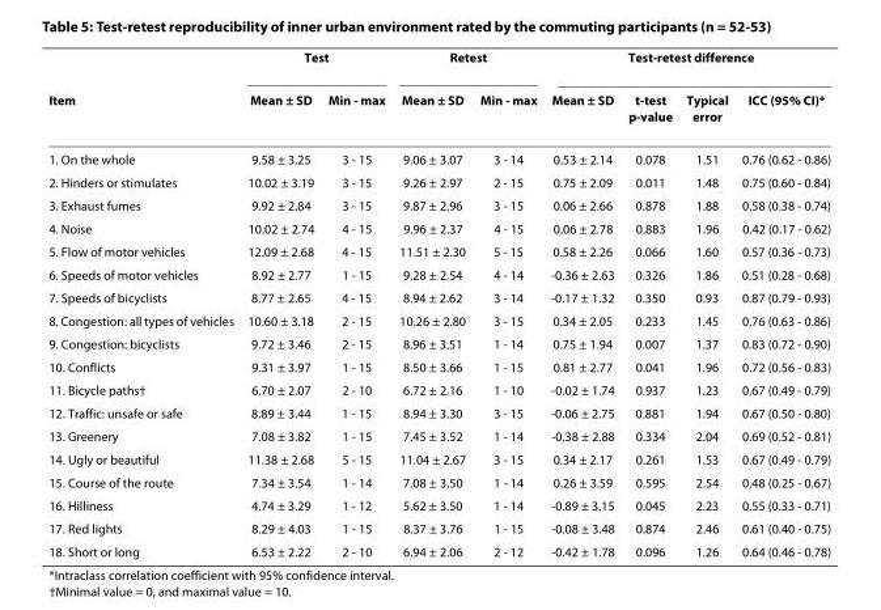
<table><thead><tr><td rowspan="2">Item</td><td colspan="2">Test</td><td colspan="2">Retest</td><td colspan="4">Test-retest difference</td></tr><tr><td>Mean ± SD</td><td>Min - max</td><td>Mean ± SD</td><td>Min - max</td><td>Mean ± SD</td><td>t-test p-value</td><td>Typical error</td><td>ICC (95% CI)*</td></tr></thead><tbody><tr><td>1. On the whole</td><td>9.58 ± 3.25</td><td>3 - 15</td><td>9.06 ± 3.07</td><td>3 - 14</td><td>0.53 ± 2.14</td><td>0.078</td><td>1.51</td><td>0.76 (0.62 - 0.86)</td></tr><tr><td>2. Hinders or stimulates</td><td>10.02 ± 3.19</td><td>3 - 15</td><td>9.26 ± 2.97</td><td>2 - 15</td><td>0.75 ± 2.09</td><td>0.011</td><td>1.48</td><td>0.75 (0.60 - 0.84)</td></tr><tr><td>3. Exhaust fumes</td><td>9.92 ± 2.84</td><td>3 - 15</td><td>9.87 ± 2.96</td><td>3 - 15</td><td>0.06 ± 2.66</td><td>0.878</td><td>1.88</td><td>0.58 (0.38 - 0.74)</td></tr><tr><td>4. Noise</td><td>10.02 ± 2.74</td><td>4 - 15</td><td>9.96 ± 2.37</td><td>4 - 15</td><td>0.06 ± 2.78</td><td>0.883</td><td>1.96</td><td>0.42 (0.17 - 0.62)</td></tr><tr><td>5. Flow of motor vehicles</td><td>12.09 ± 2.68</td><td>4 - 15</td><td>11.51 ± 2.30</td><td>5 - 15</td><td>0.58 ± 2.26</td><td>0.066</td><td>1.60</td><td>0.57 (0.36 - 0.73)</td></tr><tr><td>6. Speeds of motor vehicles</td><td>8.92 ± 2.77</td><td>1 - 15</td><td>9.28 ± 2.54</td><td>4 - 14</td><td>-0.36 ± 2.63</td><td>0.326</td><td>1.86</td><td>0.51 (0.28 - 0.68)</td></tr><tr><td>7. Speeds of bicyclists</td><td>8.77 ± 2.65</td><td>4 - 15</td><td>8.94 ± 2.62</td><td>3 - 14</td><td>-0.17 ± 1.32</td><td>0.350</td><td>0.93</td><td>0.87 (0.79 - 0.93)</td></tr><tr><td>8. Congestion: all types of vehicles</td><td>10.60 ± 3.18</td><td>2 - 15</td><td>10.26 ± 2.80</td><td>3 - 15</td><td>0.34 ± 2.05</td><td>0.233</td><td>1.45</td><td>0.76 (0.63 - 0.86)</td></tr><tr><td>9. Congestion: bicyclists</td><td>9.72 ± 3.46</td><td>2 - 15</td><td>8.96 ± 3.51</td><td>1 - 14</td><td>0.75 ± 1.94</td><td>0.007</td><td>1.37</td><td>0.83 (0.72 - 0.90)</td></tr><tr><td>10. Conflicts</td><td>9.31 ± 3.97</td><td>1 - 15</td><td>8.50 ± 3.66</td><td>1 - 15</td><td>0.81 ± 2.77</td><td>0.041</td><td>1.96</td><td>0.72 (0.56 - 0.83)</td></tr><tr><td>11. Bicycle paths†</td><td>6.70 ± 2.07</td><td>2 - 10</td><td>6.72 ± 2.16</td><td>1 - 10</td><td>-0.02 ± 1.74</td><td>0.937</td><td>1.23</td><td>0.67 (0.49 - 0.79)</td></tr><tr><td>12. Traffic: unsafe or safe</td><td>8.89 ± 3.44</td><td>1 - 15</td><td>8.94 ± 3.30</td><td>3 - 15</td><td>-0.06 ± 2.75</td><td>0.881</td><td>1.94</td><td>0.67 (0.50 - 0.80)</td></tr><tr><td>13. Greenery</td><td>7.08 ± 3.82</td><td>1 - 15</td><td>7.45 ± 3.52</td><td>1 - 14</td><td>-0.38 ± 2.88</td><td>0.334</td><td>2.04</td><td>0.69 (0.52 - 0.81)</td></tr><tr><td>14. Ugly or beautiful</td><td>11.38 ± 2.68</td><td>5 - 15</td><td>11.04 ± 2.67</td><td>3 - 15</td><td>0.34 ± 2.17</td><td>0.261</td><td>1.53</td><td>0.67 (0.49 - 0.79)</td></tr><tr><td>15. Course of the route</td><td>7.34 ± 3.54</td><td>1 - 14</td><td>7.08 ± 3.50</td><td>1 - 14</td><td>0.26 ± 3.59</td><td>0.595</td><td>2.54</td><td>0.48 (0.25 - 0.67)</td></tr><tr><td>16. Hilliness</td><td>4.74 ± 3.29</td><td>1 - 12</td><td>5.62 ± 3.50</td><td>1 - 14</td><td>-0.89 ± 3.15</td><td>0.045</td><td>2.23</td><td>0.55 (0.33 - 0.71)</td></tr><tr><td>17. Red lights</td><td>8.29 ± 4.03</td><td>1 - 15</td><td>8.37 ± 3.76</td><td>1 - 15</td><td>-0.08 ± 3.48</td><td>0.874</td><td>2.46</td><td>0.61 (0.40 - 0.75)</td></tr><tr><td>18. Short or long</td><td>6.53 ± 2.22</td><td>2 - 10</td><td>6.94 ± 2.06</td><td>2 - 12</td><td>-0.42 ± 1.78</td><td>0.096</td><td>1.26</td><td>0.64 (0.46 - 0.78)</td></tr></tbody></table>